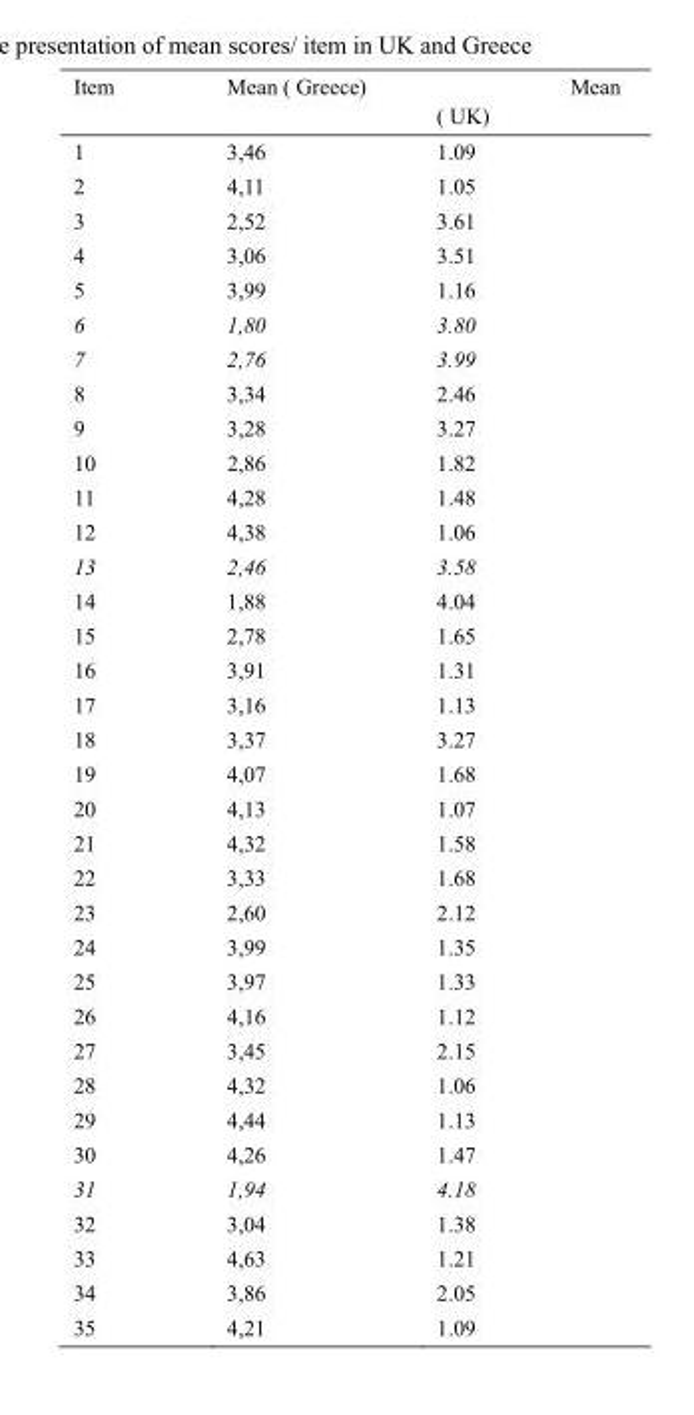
<table><thead><tr><td>Item</td><td>Mean ( Greece)</td><td>Mean ( UK)</td></tr></thead><tbody><tr><td>1</td><td>3,46</td><td>1.09</td></tr><tr><td>2</td><td>4,11</td><td>1.05</td></tr><tr><td>3</td><td>2,52</td><td>3.61</td></tr><tr><td>4</td><td>3,06</td><td>3.51</td></tr><tr><td>5</td><td>3,99</td><td>1.16</td></tr><tr><td>6</td><td>1,80</td><td>3.80</td></tr><tr><td>7</td><td>2,76</td><td>3.99</td></tr><tr><td>8</td><td>3,34</td><td>2.46</td></tr><tr><td>9</td><td>3,28</td><td>3.27</td></tr><tr><td>10</td><td>2,86</td><td>1.82</td></tr><tr><td>11</td><td>4,28</td><td>1.48</td></tr><tr><td>12</td><td>4,38</td><td>1.06</td></tr><tr><td>13</td><td>2,46</td><td>3.58</td></tr><tr><td>14</td><td>1,88</td><td>4.04</td></tr><tr><td>15</td><td>2,78</td><td>1.65</td></tr><tr><td>16</td><td>3,91</td><td>1.31</td></tr><tr><td>17</td><td>3,16</td><td>1.13</td></tr><tr><td>18</td><td>3,37</td><td>3.27</td></tr><tr><td>19</td><td>4,07</td><td>1.68</td></tr><tr><td>20</td><td>4,13</td><td>1.07</td></tr><tr><td>21</td><td>4,32</td><td>1.58</td></tr><tr><td>22</td><td>3,33</td><td>1.68</td></tr><tr><td>23</td><td>2,60</td><td>2.12</td></tr><tr><td>24</td><td>3,99</td><td>1.35</td></tr><tr><td>25</td><td>3,97</td><td>1.33</td></tr><tr><td>26</td><td>4,16</td><td>1.12</td></tr><tr><td>27</td><td>3,45</td><td>2.15</td></tr><tr><td>28</td><td>4,32</td><td>1.06</td></tr><tr><td>29</td><td>4,44</td><td>1.13</td></tr><tr><td>30</td><td>4,26</td><td>1.47</td></tr><tr><td>31</td><td>1,94</td><td>4.18</td></tr><tr><td>32</td><td>3,04</td><td>1.38</td></tr><tr><td>33</td><td>4,63</td><td>1.21</td></tr><tr><td>34</td><td>3,86</td><td>2.05</td></tr><tr><td>35</td><td>4,21</td><td>1.09</td></tr></tbody></table>